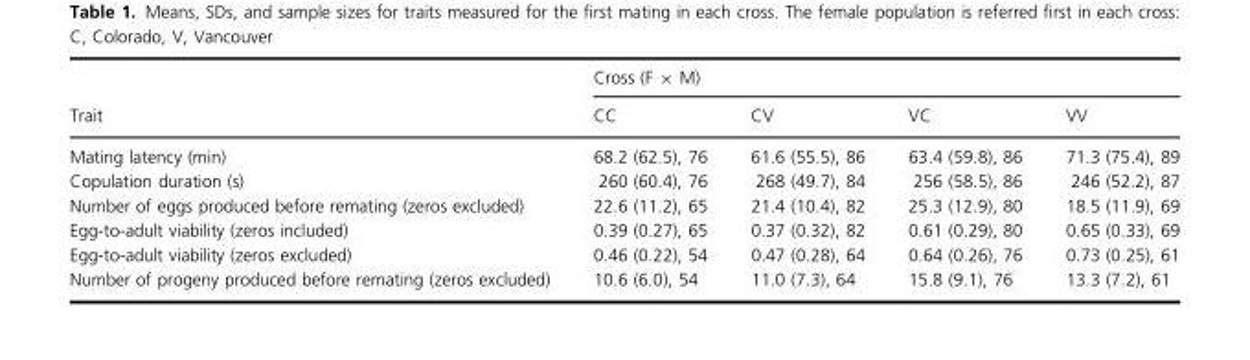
<table><thead><tr><td rowspan="2">Trait</td><td colspan="4">Cross (F × M)</td></tr><tr><td>CC</td><td>CV</td><td>VC</td><td>VV</td></tr></thead><tbody><tr><td>Mating latency (min)</td><td>68.2 (62.5), 76</td><td>61.6 (55.5), 86</td><td>63.4 (59.8), 86</td><td>71.3 (75.4), 89</td></tr><tr><td>Copulation duration (s)</td><td>260 (60.4), 76</td><td>268 (49.7), 84</td><td>256 (58.5), 86</td><td>246 (52.2), 87</td></tr><tr><td>Number of eggs produced before remating (zeros excluded)</td><td>22.6 (11.2), 65</td><td>21.4 (10.4), 82</td><td>25.3 (12.9), 80</td><td>18.5 (11.9), 69</td></tr><tr><td>Egg-to-adult viability (zeros included)</td><td>0.39 (0.27), 65</td><td>0.37 (0.32), 82</td><td>0.61 (0.29), 80</td><td>0.65 (0.33), 69</td></tr><tr><td>Egg-to-adult viability (zeros excluded)</td><td>0.46 (0.22), 54</td><td>0.47 (0.28), 64</td><td>0.64 (0.26), 76</td><td>0.73 (0.25), 61</td></tr><tr><td>Number of progeny produced before remating (zeros excluded)</td><td>10.6 (6.0), 54</td><td>11.0 (7.3), 64</td><td>15.8 (9.1), 76</td><td>13.3 (7.2), 61</td></tr></tbody></table>